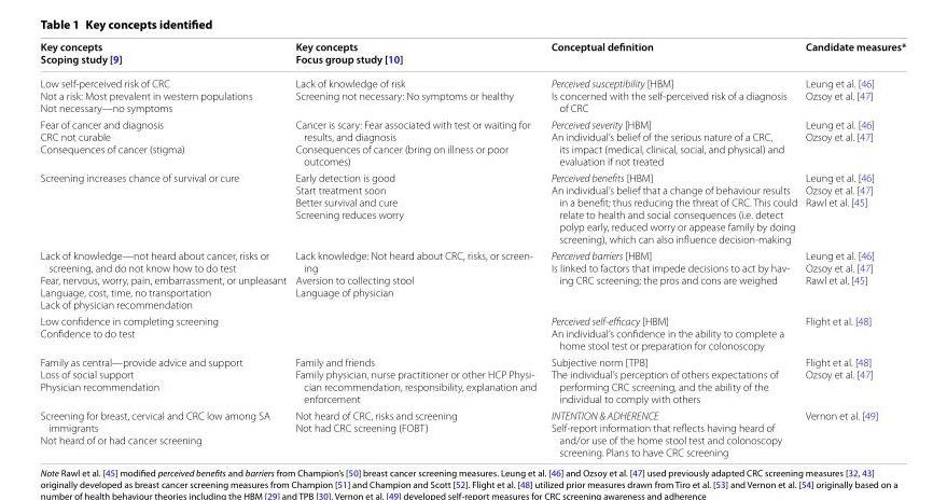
<table><thead><tr><td>Key concepts Scoping study [9]</td><td>Key concepts Focus group study [10]</td><td>Conceptual definition</td><td>Candidate measures*</td></tr></thead><tbody><tr><td>Low self-perceived risk of CRC Not a risk: Most prevalent in western populations Not necessary—no symptoms</td><td>Lack of knowledge of risk Screening not necessary: No symptoms or healthy</td><td>Perceived susceptibility [HBM] Is concerned with the self-perceived risk of a diagnosis of CRC</td><td>Leung et al. [46] Ozsoy et al. [47]</td></tr><tr><td>Fear of cancer and diagnosis CRC not curable Consequences of cancer (stigma)</td><td>Cancer is scary: Fear associated with test or waiting for results, and diagnosis Consequences of cancer (bring on illness or poor outcomes)</td><td>Perceived severity [HBM] An individual’s belief of the serious nature of a CRC, its impact (medical, clinical, social, and physical) and evaluation if not treated</td><td>Leung et al. [46] Ozsoy et al. [47]</td></tr><tr><td>Screening increases chance of survival or cure</td><td>Early detection is good Start treatment soon Better survival and cure Screening reduces worry</td><td>Perceived benefits [HBM] An individual’s belief that a change of behaviour results in a benefit; thus reducing the threat of CRC. This could relate to health and social consequences (i.e. detect polyp early, reduced worry or appease family by doing screening), which can also influence decision-making</td><td>Leung et al. [46] Ozsoy et al. [47] Rawl et al. [45]</td></tr><tr><td>Lack of knowledge—not heard about cancer, risks or screening, and do not know how to do test Fear, nervous, worry, pain, embarrassment, or unpleasant Language, cost, time, no transportation Lack of physician recommendation</td><td>Lack knowledge: Not heard about CRC, risks, or screen- ing Aversion to collecting stool Language of physician</td><td>Perceived barriers [HBM] Is linked to factors that impede decisions to act by hav- ing CRC screening; the pros and cons are weighed</td><td>Leung et al. [46] Ozsoy et al. [47] Rawl et al. [45]</td></tr><tr><td>Low confidence in completing screening Confidence to do test</td><td></td><td>Perceived self-efficacy [HBM] An individual’s confidence in the ability to complete a home stool test or preparation for colonoscopy</td><td>Flight et al. [48]</td></tr><tr><td>Family as central—provide advice and support Loss of social support Physician recommendation</td><td>Family and friends Family physician, nurse practitioner or other HCP Physi- cian recommendation, responsibility, explanation and enforcement</td><td>Subjective norm [TPB] The individual’s perception of others expectations of performing CRC screening, and the ability of the individual to comply with others</td><td>Flight et al. [48] Ozsoy et al. [47]</td></tr><tr><td>Screening for breast, cervical and CRC low among SA immigrants Not heard of or had cancer screening</td><td>Not heard of CRC, risks and screening Not had CRC screening (FOBT)</td><td>INTENTION &amp; ADHERENCE Self-report information that reflects having heard of and/or use of the home stool test and colonoscopy screening. Plans to have CRC screening</td><td>Vernon et al. [49]</td></tr></tbody></table>